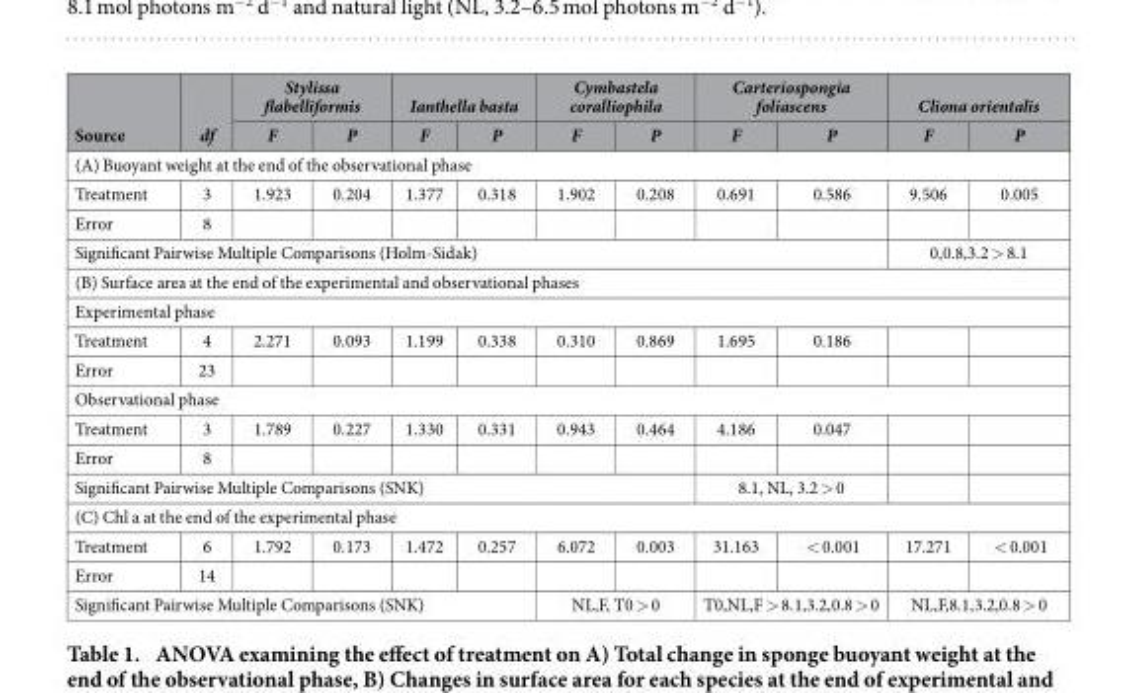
<table><thead><tr><td rowspan="2">Source</td><td rowspan="2">df</td><td colspan="2">Stylissa flabelliformis</td><td colspan="2">Ianthella basta</td><td colspan="2">Cymbastela coralliophila</td><td colspan="2">Carteriospongia foliascens</td><td colspan="2">Cliona orientalis</td></tr><tr><td>F</td><td>P</td><td>F</td><td>P</td><td>F</td><td>P</td><td>F</td><td>P</td><td>F</td><td>P</td></tr></thead><tbody><tr><td colspan="12">(A) Buoyant weight at the end of the observational phase</td></tr><tr><td>Treatment</td><td>3</td><td>1.923</td><td>0.204</td><td>1.377</td><td>0.318</td><td>1.902</td><td>0.208</td><td>0.691</td><td>0.586</td><td>9.506</td><td>0.005</td></tr><tr><td>Error</td><td>8</td><td></td><td></td><td></td><td></td><td></td><td></td><td></td><td></td><td></td><td></td></tr><tr><td colspan="10">Significant Pairwise Multiple Comparisons (Holm-Sidak)</td><td colspan="2">0,0.8,3.2 &gt; 8.1</td></tr><tr><td colspan="12">(B) Surface area at the end of the experimental and observational phases</td></tr><tr><td colspan="12">Experimental phase</td></tr><tr><td>Treatment</td><td>4</td><td>2.271</td><td>0.093</td><td>1.199</td><td>0.338</td><td>0.310</td><td>0.869</td><td>1.695</td><td>0.186</td><td></td><td></td></tr><tr><td>Error</td><td>23</td><td></td><td></td><td></td><td></td><td></td><td></td><td></td><td></td><td></td><td></td></tr><tr><td colspan="12">Observational phase</td></tr><tr><td>Treatment</td><td>3</td><td>1.789</td><td>0.227</td><td>1.330</td><td>0.331</td><td>0.943</td><td>0.464</td><td>4.186</td><td>0.047</td><td></td><td></td></tr><tr><td>Error</td><td>8</td><td></td><td></td><td></td><td></td><td></td><td></td><td></td><td></td><td></td><td></td></tr><tr><td colspan="8">Significant Pairwise Multiple Comparisons (SNK)</td><td colspan="2">8.1, NL, 3.2 &gt; 0</td><td></td><td></td></tr><tr><td colspan="12">(C) Chl a at the end of the experimental phase</td></tr><tr><td>Treatment</td><td>6</td><td>1.792</td><td>0.173</td><td>1.472</td><td>0.257</td><td>6.072</td><td>0.003</td><td>31.163</td><td>&lt; 0.001</td><td>17.271</td><td>&lt; 0.001</td></tr><tr><td>Error</td><td>14</td><td></td><td></td><td></td><td></td><td></td><td></td><td></td><td></td><td></td><td></td></tr><tr><td colspan="6">Significant Pairwise Multiple Comparisons (SNK)</td><td colspan="2">NL,F, T0 &gt; 0</td><td colspan="2">T0,NL,F &gt; 8.1,3.2,0.8 &gt; 0</td><td colspan="2">NL,F,8.1,3.2,0.8 &gt; 0</td></tr></tbody></table>